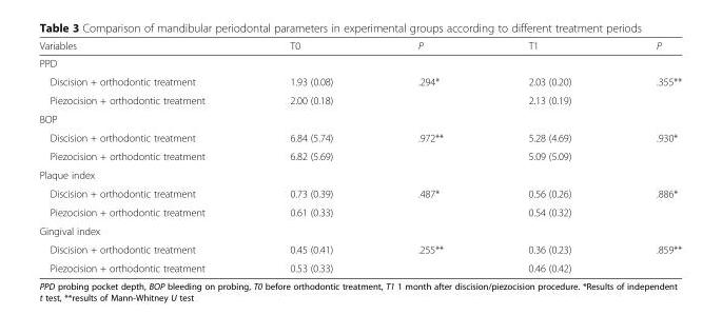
<table><thead><tr><td>Variables</td><td>T0</td><td>P</td><td>T1</td><td>P</td></tr></thead><tbody><tr><td colspan="5">PPD</td></tr><tr><td>Discision + orthodontic treatment</td><td>1.93 (0.08)</td><td rowspan="2">.294*</td><td>2.03 (0.20)</td><td rowspan="2">.355**</td></tr><tr><td>Piezocision + orthodontic treatment</td><td>2.00 (0.18)</td><td>2.13 (0.19)</td></tr><tr><td colspan="5">BOP</td></tr><tr><td>Discision + orthodontic treatment</td><td>6.84 (5.74)</td><td rowspan="2">.972**</td><td>5.28 (4.69)</td><td rowspan="2">.930*</td></tr><tr><td>Piezocision + orthodontic treatment</td><td>6.82 (5.69)</td><td>5.09 (5.09)</td></tr><tr><td colspan="5">Plaque index</td></tr><tr><td>Discision + orthodontic treatment</td><td>0.73 (0.39)</td><td rowspan="2">.487*</td><td>0.56 (0.26)</td><td rowspan="2">.886*</td></tr><tr><td>Piezocision + orthodontic treatment</td><td>0.61 (0.33)</td><td>0.54 (0.32)</td></tr><tr><td colspan="5">Gingival index</td></tr><tr><td>Discision + orthodontic treatment</td><td>0.45 (0.41)</td><td rowspan="2">.255**</td><td>0.36 (0.23)</td><td rowspan="2">.859**</td></tr><tr><td>Piezocision + orthodontic treatment</td><td>0.53 (0.33)</td><td>0.46 (0.42)</td></tr></tbody></table>